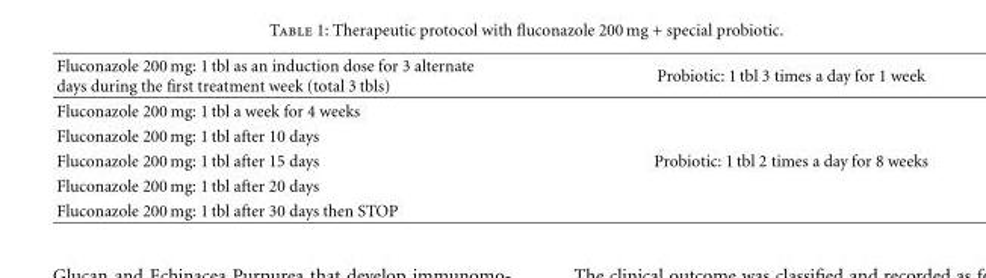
<table><tbody><tr><td>Fluconazole 200 mg: 1 tbl as an induction dose for 3 alternate days during the first treatment week (total 3 tbls)</td><td>Probiotic: 1 tbl 3 times a day for 1 week</td></tr><tr><td colspan="2">Fluconazole 200 mg: 1 tbl a week for 4 weeks</td></tr><tr><td colspan="2">Fluconazole 200 mg: 1 tbl after 10 days</td></tr><tr><td>Fluconazole 200 mg: 1 tbl after 15 days</td><td>Probiotic: 1 tbl 2 times a day for 8 weeks</td></tr><tr><td colspan="2">Fluconazole 200 mg: 1 tbl after 20 days</td></tr><tr><td>Fluconazole 200 mg: 1 tbl after 30 days then STOP</td><td></td></tr></tbody></table>